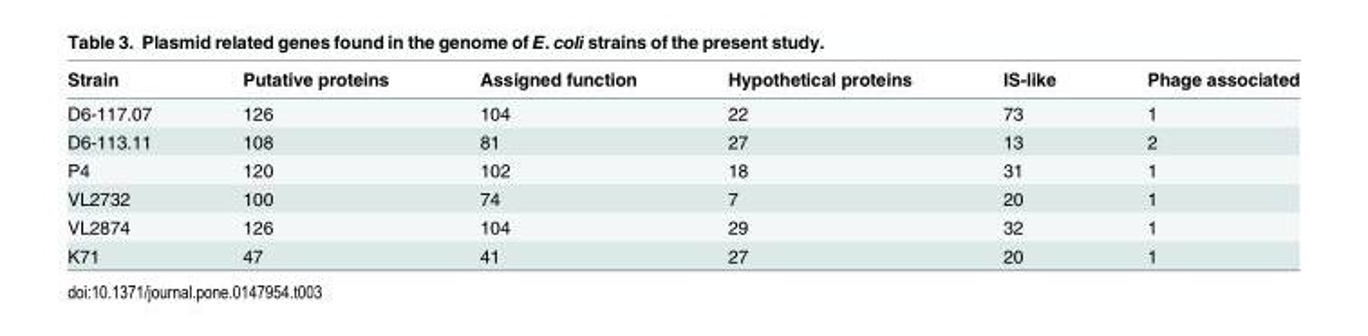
<table><thead><tr><td>Strain</td><td>Putative proteins</td><td>Assigned function</td><td>Hypothetical proteins</td><td>IS-like</td><td>Phage associated</td></tr></thead><tbody><tr><td>D6-117.07</td><td>126</td><td>104</td><td>22</td><td>73</td><td>1</td></tr><tr><td>D6-113.11</td><td>108</td><td>81</td><td>27</td><td>13</td><td>2</td></tr><tr><td>P4</td><td>120</td><td>102</td><td>18</td><td>31</td><td>1</td></tr><tr><td>VL2732</td><td>100</td><td>74</td><td>7</td><td>20</td><td>1</td></tr><tr><td>VL2874</td><td>126</td><td>104</td><td>29</td><td>32</td><td>1</td></tr><tr><td>K71</td><td>47</td><td>41</td><td>27</td><td>20</td><td>1</td></tr></tbody></table>